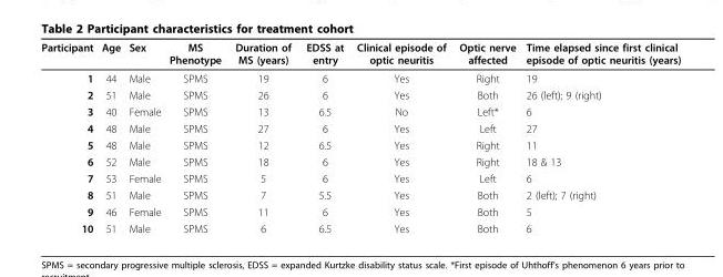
<table><thead><tr><td>Participant</td><td>Age</td><td>Sex</td><td>MS Phenotype</td><td>Duration of MS (years)</td><td>EDSS at entry</td><td>Clinical episode of optic neuritis</td><td>Optic nerve affected</td><td>Time elapsed since first clinical episode of optic neuritis (years)</td></tr></thead><tbody><tr><td>1</td><td>44</td><td>Male</td><td>SPMS</td><td>19</td><td>6</td><td>Yes</td><td>Right</td><td>19</td></tr><tr><td>2</td><td>51</td><td>Male</td><td>SPMS</td><td>26</td><td>6</td><td>Yes</td><td>Both</td><td>26 (left); 9 (right)</td></tr><tr><td>3</td><td>40</td><td>Female</td><td>SPMS</td><td>13</td><td>6.5</td><td>No</td><td>Left*</td><td>6</td></tr><tr><td>4</td><td>48</td><td>Male</td><td>SPMS</td><td>27</td><td>6</td><td>Yes</td><td>Left</td><td>27</td></tr><tr><td>5</td><td>48</td><td>Male</td><td>SPMS</td><td>12</td><td>6.5</td><td>Yes</td><td>Right</td><td>11</td></tr><tr><td>6</td><td>52</td><td>Male</td><td>SPMS</td><td>18</td><td>6</td><td>Yes</td><td>Right</td><td>18 &amp; 13</td></tr><tr><td>7</td><td>53</td><td>Female</td><td>SPMS</td><td>5</td><td>6</td><td>Yes</td><td>Left</td><td>6</td></tr><tr><td>8</td><td>51</td><td>Male</td><td>SPMS</td><td>7</td><td>5.5</td><td>Yes</td><td>Both</td><td>2 (left); 7 (right)</td></tr><tr><td>9</td><td>46</td><td>Female</td><td>SPMS</td><td>11</td><td>6</td><td>Yes</td><td>Both</td><td>5</td></tr><tr><td>10</td><td>51</td><td>Male</td><td>SPMS</td><td>6</td><td>6.5</td><td>Yes</td><td>Both</td><td>6</td></tr></tbody></table>